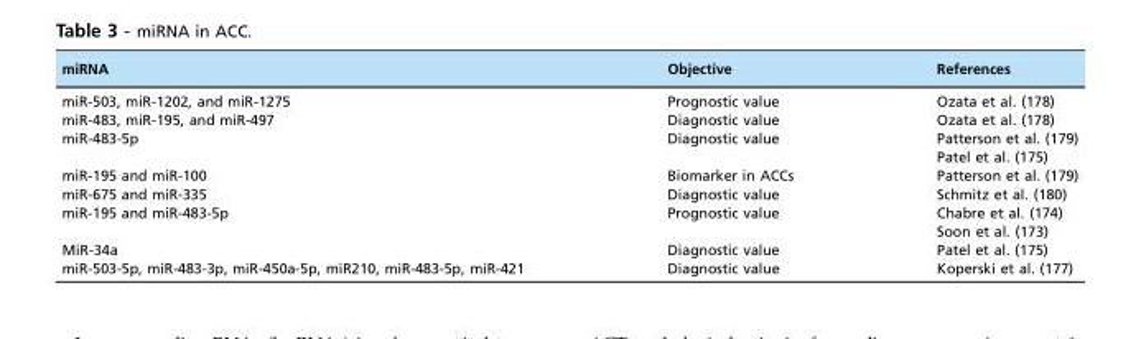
<table><thead><tr><td>miRNA</td><td>Objective</td><td>References</td></tr></thead><tbody><tr><td>miR-503, miR-1202, and miR-1275</td><td>Prognostic value</td><td>Ozata et al. (178)</td></tr><tr><td>miR-483, miR-195, and miR-497</td><td>Diagnostic value</td><td>Ozata et al. (178)</td></tr><tr><td rowspan="2">miR-483-5p</td><td>Diagnostic value</td><td>Patterson et al. (179)</td></tr><tr><td></td><td>Patel et al. (175)</td></tr><tr><td>miR-195 and miR-100</td><td>Biomarker in ACCs</td><td>Patterson et al. (179)</td></tr><tr><td>miR-675 and miR-335</td><td>Diagnostic value</td><td>Schmitz et al. (180)</td></tr><tr><td rowspan="2">miR-195 and miR-483-5p</td><td>Prognostic value</td><td>Chabre et al. (174)</td></tr><tr><td></td><td>Soon et al. (173)</td></tr><tr><td>MiR-34a</td><td>Diagnostic value</td><td>Patel et al. (175)</td></tr><tr><td>miR-503-5p, miR-483-3p, miR-450a-5p, miR210, miR-483-5p, miR-421</td><td>Diagnostic value</td><td>Koperski et al. (177)</td></tr></tbody></table>